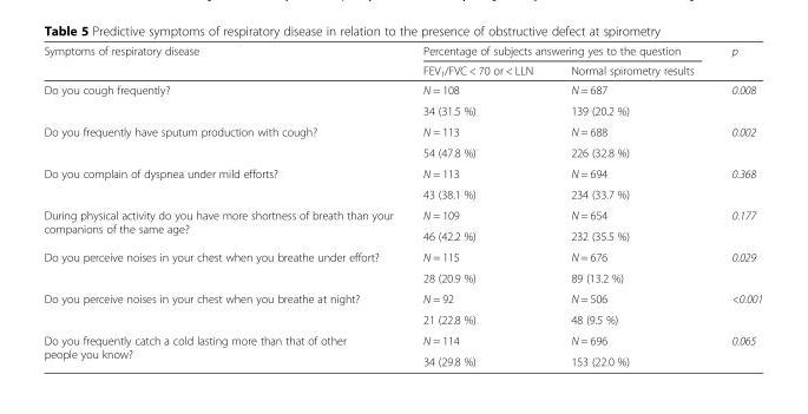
<table><thead><tr><td rowspan="2">Symptoms of respiratory disease</td><td colspan="2">Percentage of subjects answering yes to the question</td><td rowspan="2">p</td></tr><tr><td>FEV<sub>1</sub>/FVC &lt; 70 or &lt; LLN</td><td>Normal spirometry results</td></tr></thead><tbody><tr><td rowspan="2">Do you cough frequently?</td><td>N = 108</td><td>N = 687</td><td rowspan="2">0.008</td></tr><tr><td>34 (31.5 %)</td><td>139 (20.2 %)</td></tr><tr><td rowspan="2">Do you frequently have sputum production with cough?</td><td>N = 113</td><td>N = 688</td><td rowspan="2">0.002</td></tr><tr><td>54 (47.8 %)</td><td>226 (32.8 %)</td></tr><tr><td rowspan="2">Do you complain of dyspnea under mild efforts?</td><td>N = 113</td><td>N = 694</td><td rowspan="2">0.368</td></tr><tr><td>43 (38.1 %)</td><td>234 (33.7 %)</td></tr><tr><td rowspan="2">During physical activity do you have more shortness of breath than your companions of the same age?</td><td>N = 109</td><td>N = 654</td><td rowspan="2">0.177</td></tr><tr><td>46 (42.2 %)</td><td>232 (35.5 %)</td></tr><tr><td rowspan="2">Do you perceive noises in your chest when you breathe under effort?</td><td>N = 115</td><td>N = 676</td><td rowspan="2">0.029</td></tr><tr><td>28 (20.9 %)</td><td>89 (13.2 %)</td></tr><tr><td rowspan="2">Do you perceive noises in your chest when you breathe at night?</td><td>N = 92</td><td>N = 506</td><td rowspan="2">&lt;0.001</td></tr><tr><td>21 (22.8 %)</td><td>48 (9.5 %)</td></tr><tr><td rowspan="2">Do you frequently catch a cold lasting more than that of other people you know?</td><td>N = 114</td><td>N = 696</td><td rowspan="2">0.065</td></tr><tr><td>34 (29.8 %)</td><td>153 (22.0 %)</td></tr></tbody></table>